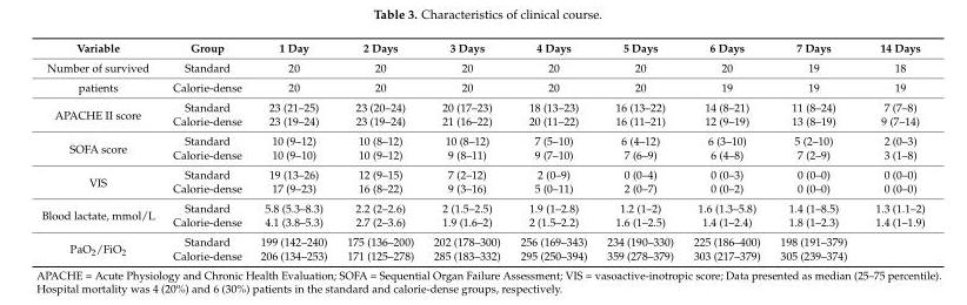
<table><thead><tr><td>Variable</td><td>Group</td><td>1 Day</td><td>2 Days</td><td>3 Days</td><td>4 Days</td><td>5 Days</td><td>6 Days</td><td>7 Days</td><td>14 Days</td></tr></thead><tbody><tr><td>Number of survived</td><td>Standard</td><td>20</td><td>20</td><td>20</td><td>20</td><td>20</td><td>20</td><td>19</td><td>18</td></tr><tr><td>patients</td><td>Calorie-dense</td><td>20</td><td>20</td><td>20</td><td>20</td><td>20</td><td>19</td><td>19</td><td>19</td></tr><tr><td rowspan="2">APACHE II score</td><td>Standard</td><td>23 (21–25)</td><td>23 (20–24)</td><td>20 (17–23)</td><td>18 (13–23)</td><td>16 (13–22)</td><td>14 (8–21)</td><td>11 (8–24)</td><td>7 (7–8)</td></tr><tr><td>Calorie-dense</td><td>23 (19–24)</td><td>23 (19–24)</td><td>21 (16–22)</td><td>20 (11–22)</td><td>16 (11–21)</td><td>12 (9–19)</td><td>13 (8–19)</td><td>9 (7–14)</td></tr><tr><td rowspan="2">SOFA score</td><td>Standard</td><td>10 (9–12)</td><td>10 (8–12)</td><td>10 (8–12)</td><td>7 (5–10)</td><td>6 (4–12)</td><td>6 (3–10)</td><td>5 (2–10)</td><td>2 (0–3)</td></tr><tr><td>Calorie-dense</td><td>10 (9–10)</td><td>10 (9–12)</td><td>9 (8–11)</td><td>9 (7–10)</td><td>7 (6–9)</td><td>6 (4–8)</td><td>7 (2–9)</td><td>3 (1–8)</td></tr><tr><td rowspan="2">VIS</td><td>Standard</td><td>19 (13–26)</td><td>12 (9–15)</td><td>7 (2–12)</td><td>2 (0–9)</td><td>0 (0–4)</td><td>0 (0–3)</td><td>0 (0–0)</td><td>0 (0–0)</td></tr><tr><td>Calorie-dense</td><td>17 (9–23)</td><td>16 (8–22)</td><td>9 (3–16)</td><td>5 (0–11)</td><td>2 (0–7)</td><td>0 (0–2)</td><td>0 (0–0)</td><td>0 (0–0)</td></tr><tr><td rowspan="2">Blood lactate, mmol/L</td><td>Standard</td><td>5.8 (5.3–8.3)</td><td>2.2 (2–2.6)</td><td>2 (1.5–2.5)</td><td>1.9 (1–2.8)</td><td>1.2 (1–2)</td><td>1.6 (1.3–5.8)</td><td>1.4 (1–8.5)</td><td>1.3 (1.1–2)</td></tr><tr><td>Calorie-dense</td><td>4.1 (3.8–5.3)</td><td>2.7 (2–3.6)</td><td>1.9 (1.6–2)</td><td>2 (1.5–2.2)</td><td>1.6 (1–2.5)</td><td>1.4 (1–2.4)</td><td>1.8 (1–2.3)</td><td>1.4 (1–1.9)</td></tr><tr><td rowspan="2">PaO<sub>2</sub>/FiO<sub>2</sub></td><td>Standard</td><td>199 (142–240)</td><td>175 (136–200)</td><td>202 (178–300)</td><td>256 (169–343)</td><td>234 (190–330)</td><td>225 (186–400)</td><td>198 (191–379)</td><td></td></tr><tr><td>Calorie-dense</td><td>206 (134–253)</td><td>171 (125–278)</td><td>285 (183–332)</td><td>295 (250–394)</td><td>359 (278–379)</td><td>303 (217–379)</td><td>305 (239–374)</td><td></td></tr></tbody></table>